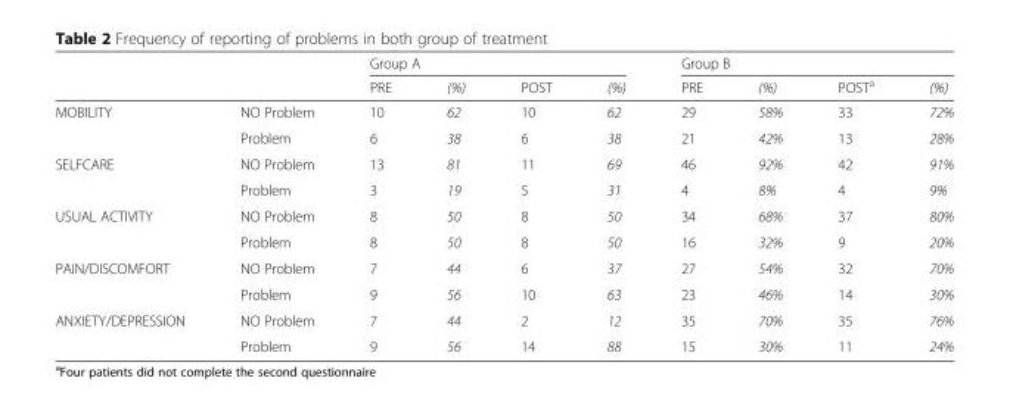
<table><thead><tr><td rowspan="2"></td><td rowspan="2"></td><td colspan="4">Group A</td><td colspan="4">Group B</td></tr><tr><td>PRE</td><td>(%)</td><td>POST</td><td>(%)</td><td>PRE</td><td>(%)</td><td>POST<sup>a</sup></td><td>(%)</td></tr></thead><tbody><tr><td rowspan="2">MOBILITY</td><td>NO Problem</td><td>10</td><td>62</td><td>10</td><td>62</td><td>29</td><td>58%</td><td>33</td><td>72%</td></tr><tr><td>Problem</td><td>6</td><td>38</td><td>6</td><td>38</td><td>21</td><td>42%</td><td>13</td><td>28%</td></tr><tr><td rowspan="2">SELFCARE</td><td>NO Problem</td><td>13</td><td>81</td><td>11</td><td>69</td><td>46</td><td>92%</td><td>42</td><td>91%</td></tr><tr><td>Problem</td><td>3</td><td>19</td><td>5</td><td>31</td><td>4</td><td>8%</td><td>4</td><td>9%</td></tr><tr><td rowspan="2">USUAL ACTIVITY</td><td>NO Problem</td><td>8</td><td>50</td><td>8</td><td>50</td><td>34</td><td>68%</td><td>37</td><td>80%</td></tr><tr><td>Problem</td><td>8</td><td>50</td><td>8</td><td>50</td><td>16</td><td>32%</td><td>9</td><td>20%</td></tr><tr><td rowspan="2">PAIN/DISCOMFORT</td><td>NO Problem</td><td>7</td><td>44</td><td>6</td><td>37</td><td>27</td><td>54%</td><td>32</td><td>70%</td></tr><tr><td>Problem</td><td>9</td><td>56</td><td>10</td><td>63</td><td>23</td><td>46%</td><td>14</td><td>30%</td></tr><tr><td rowspan="2">ANXIETY/DEPRESSION</td><td>NO Problem</td><td>7</td><td>44</td><td>2</td><td>12</td><td>35</td><td>70%</td><td>35</td><td>76%</td></tr><tr><td>Problem</td><td>9</td><td>56</td><td>14</td><td>88</td><td>15</td><td>30%</td><td>11</td><td>24%</td></tr></tbody></table>